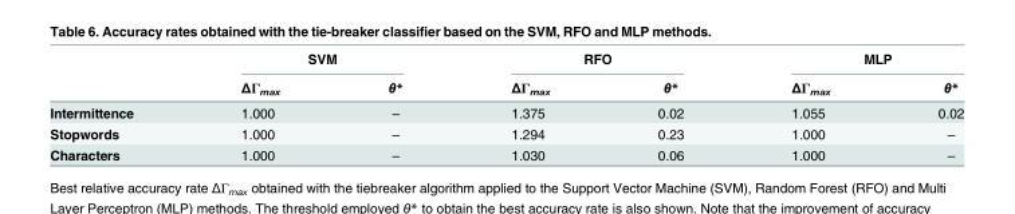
<table><thead><tr><td rowspan="2"></td><td colspan="2">SVM</td><td colspan="2">RFO</td><td colspan="2">MLP</td></tr><tr><td>ΔΓ<sub>max</sub></td><td>θ*</td><td>ΔΓ<sub>max</sub></td><td>θ*</td><td>ΔΓ<sub>max</sub></td><td>θ*</td></tr></thead><tbody><tr><td>Intermittence</td><td>1.000</td><td>–</td><td>1.375</td><td>0.02</td><td>1.055</td><td>0.02</td></tr><tr><td>Stopwords</td><td>1.000</td><td>–</td><td>1.294</td><td>0.23</td><td>1.000</td><td>–</td></tr><tr><td>Characters</td><td>1.000</td><td>–</td><td>1.030</td><td>0.06</td><td>1.000</td><td>–</td></tr></tbody></table>